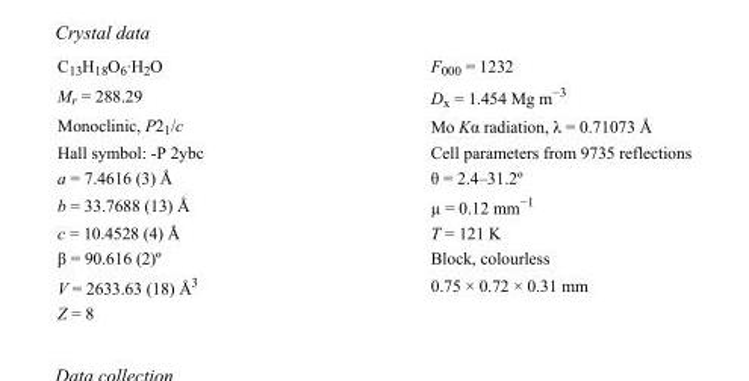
<table><tbody><tr><td>C<sub>13</sub>H<sub>18</sub>O<sub>6</sub>·H<sub>2</sub>O</td><td>F000 = 1232</td></tr><tr><td>M<sub>r</sub> = 288.29</td><td>D<sub>x</sub> = 1.454 Mg m<sup>−3</sup></td></tr><tr><td>Monoclinic, P2<sub>1</sub>/c</td><td>Mo Kα radiation, λ = 0.71073 Å</td></tr><tr><td>Hall symbol: -P 2ybc</td><td>Cell parameters from 9735 reflections</td></tr><tr><td>a = 7.4616 (3) Å</td><td>θ = 2.4–31.2º</td></tr><tr><td>b = 33.7688 (13) Å</td><td>µ = 0.12 mm<sup>−1</sup></td></tr><tr><td>c = 10.4528 (4) Å</td><td>T = 121 K</td></tr><tr><td>β = 90.616 (2)º</td><td>Block, colourless</td></tr><tr><td>V = 2633.63 (18) Å<sup>3</sup></td><td>0.75 × 0.72 × 0.31 mm</td></tr><tr><td>Z = 8</td><td></td></tr></tbody></table>